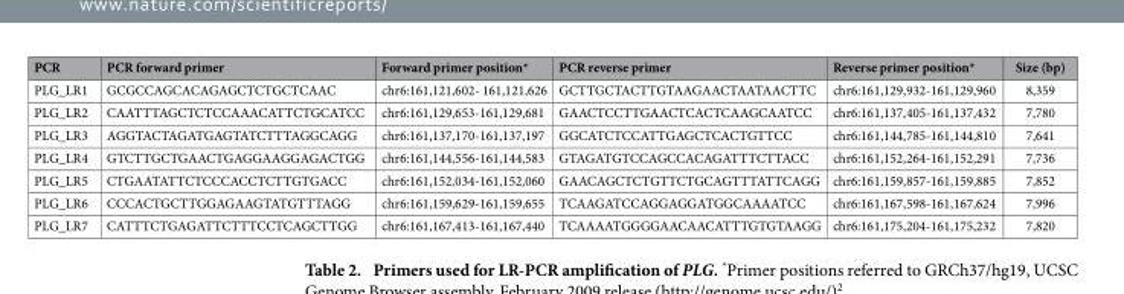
<table><thead><tr><td>PCR</td><td>PCR forward primer</td><td>Forward primer position*</td><td>PCR reverse primer</td><td>Reverse primer position*</td><td>Size (bp)</td></tr></thead><tbody><tr><td>PLG_LR1</td><td>GCGCCAGCACAGAGCTCTGCTCAAC</td><td>chr6:161,121,602- 161,121,626</td><td>GCTTGCTACTTGTAAGAACTAATAACTTC</td><td>chr6:161,129,932-161,129,960</td><td>8,359</td></tr><tr><td>PLG_LR2</td><td>CAATTTAGCTCTCCAAACATTCTGCATCC</td><td>chr6:161,129,653-161,129,681</td><td>GAACTCCTTGAACTCACTCAAGCAATCC</td><td>chr6:161,137,405-161,137,432</td><td>7,780</td></tr><tr><td>PLG_LR3</td><td>AGGTACTAGATGAGTATCTTTAGGCAGG</td><td>chr6:161,137,170-161,137,197</td><td>GGCATCTCCATTGAGCTCACTGTTCC</td><td>chr6:161,144,785-161,144,810</td><td>7,641</td></tr><tr><td>PLG_LR4</td><td>GTCTTGCTGAACTGAGGAAGGAGACTGG</td><td>chr6:161,144,556-161,144,583</td><td>GTAGATGTCCAGCCACAGATTTCTTACC</td><td>chr6:161,152,264-161,152,291</td><td>7,736</td></tr><tr><td>PLG_LR5</td><td>CTGAATATTCTCCCACCTCTTGTGACC</td><td>chr6:161,152,034-161,152,060</td><td>GAACAGCTCTGTTCTGCAGTTTATTCAGG</td><td>chr6:161,159,857-161,159,885</td><td>7,852</td></tr><tr><td>PLG_LR6</td><td>CCCACTGCTTGGAGAAGTATGTTTAGG</td><td>chr6:161,159,629-161,159,655</td><td>TCAAGATCCAGGAGGATGGCAAAATCC</td><td>chr6:161,167,598-161,167,624</td><td>7,996</td></tr><tr><td>PLG_LR7</td><td>CATTTCTGAGATTCTTTCCTCAGCTTGG</td><td>chr6:161,167,413-161,167,440</td><td>TCAAAATGGGGAACAACATTTGTGTAAGG</td><td>chr6:161,175,204-161,175,232</td><td>7,820</td></tr></tbody></table>